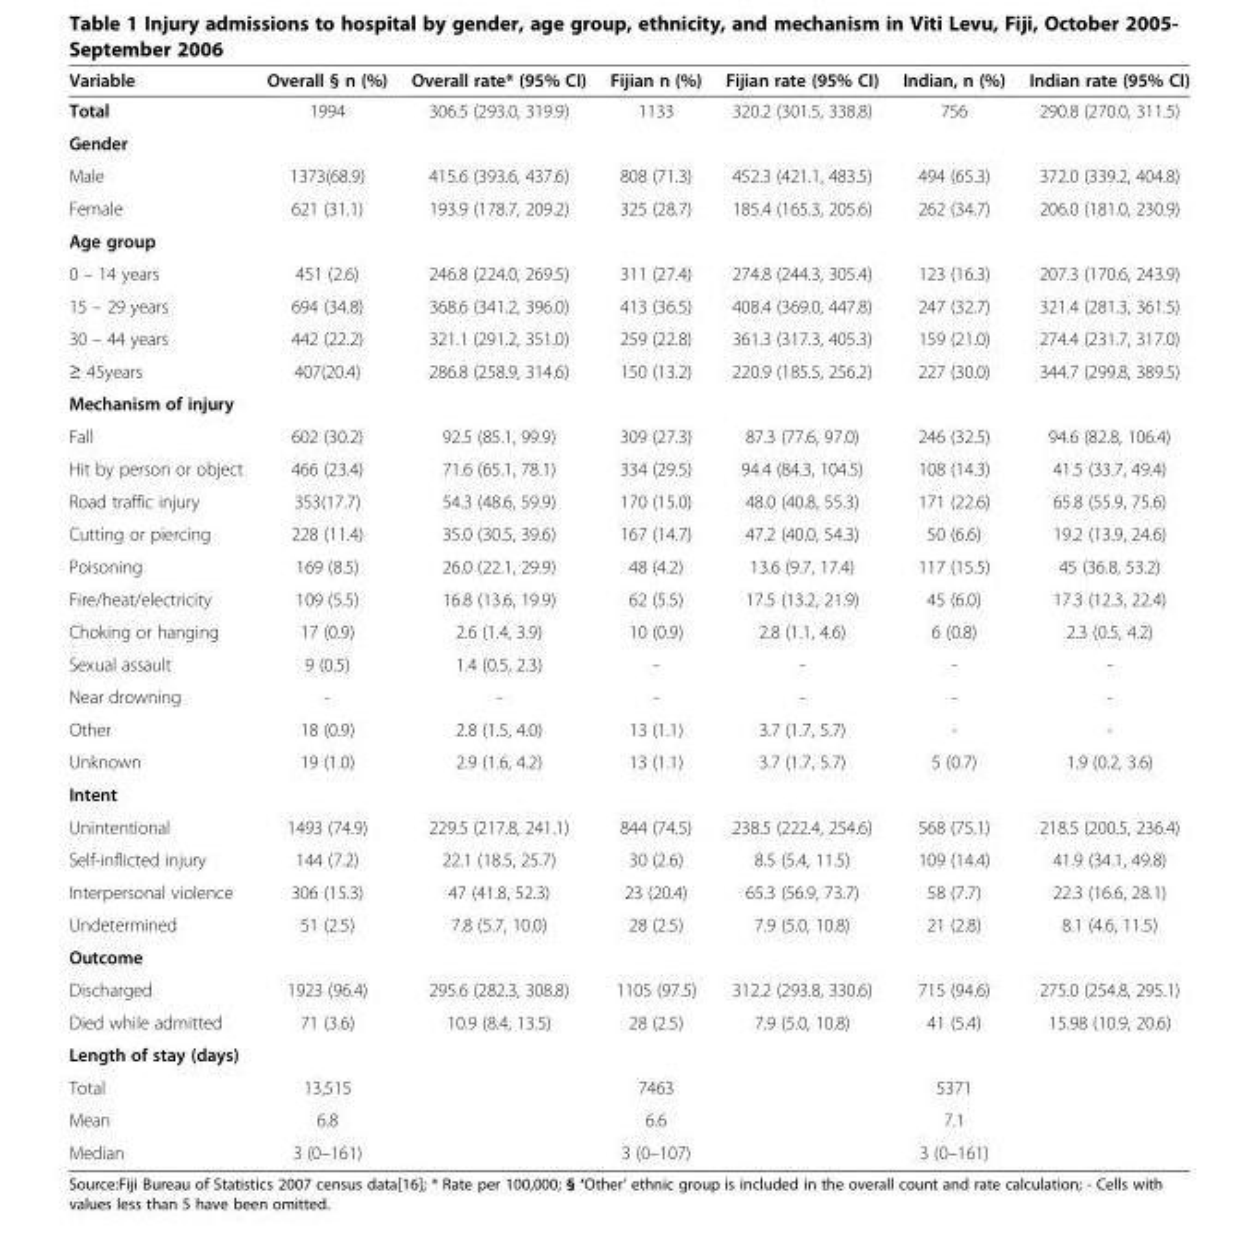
<table><thead><tr><td>Variable</td><td>Overall § n (%)</td><td>Overall rate* (95% CI)</td><td>Fijian n (%)</td><td>Fijian rate (95% CI)</td><td>Indian, n (%)</td><td>Indian rate (95% CI)</td></tr></thead><tbody><tr><td>Total</td><td>1994</td><td>306.5 (293.0, 319.9)</td><td>1133</td><td>320.2 (301.5, 338.8)</td><td>756</td><td>290.8 (270.0, 311.5)</td></tr><tr><td colspan="7">Gender</td></tr><tr><td>Male</td><td>1373(68.9)</td><td>415.6 (393.6, 437.6)</td><td>808 (71.3)</td><td>452.3 (421.1, 483.5)</td><td>494 (65.3)</td><td>372.0 (339.2, 404.8)</td></tr><tr><td>Female</td><td>621 (31.1)</td><td>193.9 (178.7, 209.2)</td><td>325 (28.7)</td><td>185.4 (165.3, 205.6)</td><td>262 (34.7)</td><td>206.0 (181.0, 230.9)</td></tr><tr><td colspan="7">Age group</td></tr><tr><td>0 – 14 years</td><td>451 (2.6)</td><td>246.8 (224.0, 269.5)</td><td>311 (27.4)</td><td>274.8 (244.3, 305.4)</td><td>123 (16.3)</td><td>207.3 (170.6, 243.9)</td></tr><tr><td>15 – 29 years</td><td>694 (34.8)</td><td>368.6 (341.2, 396.0)</td><td>413 (36.5)</td><td>408.4 (369.0, 447.8)</td><td>247 (32.7)</td><td>321.4 (281.3, 361.5)</td></tr><tr><td>30 – 44 years</td><td>442 (22.2)</td><td>321.1 (291.2, 351.0)</td><td>259 (22.8)</td><td>361.3 (317.3, 405.3)</td><td>159 (21.0)</td><td>274.4 (231.7, 317.0)</td></tr><tr><td>≥ 45years</td><td>407(20.4)</td><td>286.8 (258.9, 314.6)</td><td>150 (13.2)</td><td>220.9 (185.5, 256.2)</td><td>227 (30.0)</td><td>344.7 (299.8, 389.5)</td></tr><tr><td colspan="7">Mechanism of injury</td></tr><tr><td>Fall</td><td>602 (30.2)</td><td>92.5 (85.1, 99.9)</td><td>309 (27.3)</td><td>87.3 (77.6, 97.0)</td><td>246 (32.5)</td><td>94.6 (82.8, 106.4)</td></tr><tr><td>Hit by person or object</td><td>466 (23.4)</td><td>71.6 (65.1, 78.1)</td><td>334 (29.5)</td><td>94.4 (84.3, 104.5)</td><td>108 (14.3)</td><td>41.5 (33.7, 49.4)</td></tr><tr><td>Road traffic injury</td><td>353(17.7)</td><td>54.3 (48.6, 59.9)</td><td>170 (15.0)</td><td>48.0 (40.8, 55.3)</td><td>171 (22.6)</td><td>65.8 (55.9, 75.6)</td></tr><tr><td>Cutting or piercing</td><td>228 (11.4)</td><td>35.0 (30.5, 39.6)</td><td>167 (14.7)</td><td>47.2 (40.0, 54.3)</td><td>50 (6.6)</td><td>19.2 (13.9, 24.6)</td></tr><tr><td>Poisoning</td><td>169 (8.5)</td><td>26.0 (22.1, 29.9)</td><td>48 (4.2)</td><td>13.6 (9.7, 17.4)</td><td>117 (15.5)</td><td>45 (36.8, 53.2)</td></tr><tr><td>Fire/heat/electricity</td><td>109 (5.5)</td><td>16.8 (13.6, 19.9)</td><td>62 (5.5)</td><td>17.5 (13.2, 21.9)</td><td>45 (6.0)</td><td>17.3 (12.3, 22.4)</td></tr><tr><td>Choking or hanging</td><td>17 (0.9)</td><td>2.6 (1.4, 3.9)</td><td>10 (0.9)</td><td>2.8 (1.1, 4.6)</td><td>6 (0.8)</td><td>2.3 (0.5, 4.2)</td></tr><tr><td>Sexual assault</td><td>9 (0.5)</td><td>1.4 (0.5, 2.3)</td><td>-</td><td>-</td><td>-</td><td>-</td></tr><tr><td>Near drowning</td><td>-</td><td>-</td><td>-</td><td>-</td><td>-</td><td>-</td></tr><tr><td>Other</td><td>18 (0.9)</td><td>2.8 (1.5, 4.0)</td><td>13 (1.1)</td><td>3.7 (1.7, 5.7)</td><td>-</td><td>-</td></tr><tr><td>Unknown</td><td>19 (1.0)</td><td>2.9 (1.6, 4.2)</td><td>13 (1.1)</td><td>3.7 (1.7, 5.7)</td><td>5 (0.7)</td><td>1.9 (0.2, 3.6)</td></tr><tr><td colspan="7">Intent</td></tr><tr><td>Unintentional</td><td>1493 (74.9)</td><td>229.5 (217.8, 241.1)</td><td>844 (74.5)</td><td>238.5 (222.4, 254.6)</td><td>568 (75.1)</td><td>218.5 (200.5, 236.4)</td></tr><tr><td>Self-inflicted injury</td><td>144 (7.2)</td><td>22.1 (18.5, 25.7)</td><td>30 (2.6)</td><td>8.5 (5.4, 11.5)</td><td>109 (14.4)</td><td>41.9 (34.1, 49.8)</td></tr><tr><td>Interpersonal violence</td><td>306 (15.3)</td><td>47 (41.8, 52.3)</td><td>23 (20.4)</td><td>65.3 (56.9, 73.7)</td><td>58 (7.7)</td><td>22.3 (16.6, 28.1)</td></tr><tr><td>Undetermined</td><td>51 (2.5)</td><td>7.8 (5.7, 10.0)</td><td>28 (2.5)</td><td>7.9 (5.0, 10.8)</td><td>21 (2.8)</td><td>8.1 (4.6, 11.5)</td></tr><tr><td colspan="7">Outcome</td></tr><tr><td>Discharged</td><td>1923 (96.4)</td><td>295.6 (282.3, 308.8)</td><td>1105 (97.5)</td><td>312.2 (293.8, 330.6)</td><td>715 (94.6)</td><td>275.0 (254.8, 295.1)</td></tr><tr><td>Died while admitted</td><td>71 (3.6)</td><td>10.9 (8.4, 13.5)</td><td>28 (2.5)</td><td>7.9 (5.0, 10.8)</td><td>41 (5.4)</td><td>15.98 (10.9, 20.6)</td></tr><tr><td colspan="7">Length of stay (days)</td></tr><tr><td>Total</td><td>13,515</td><td></td><td>7463</td><td></td><td>5371</td><td></td></tr><tr><td>Mean</td><td>6.8</td><td></td><td>6.6</td><td></td><td>7.1</td><td></td></tr><tr><td>Median</td><td>3 (0–161)</td><td></td><td>3 (0–107)</td><td></td><td>3 (0–161)</td><td></td></tr></tbody></table>